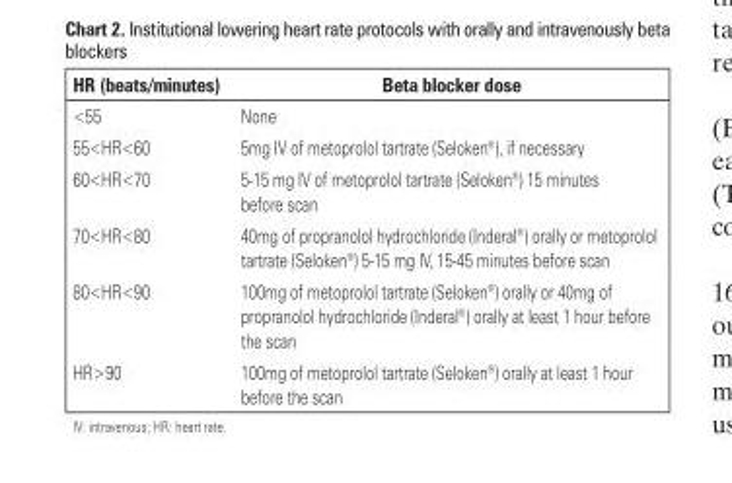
<table><thead><tr><td>HR (beats/minutes)</td><td>Beta blocker dose</td></tr></thead><tbody><tr><td>&lt;55</td><td>None</td></tr><tr><td>55&lt;HR&lt;60</td><td>5mg IV of metoprolol tartrate (Seloken<sup>®</sup>), if necessary</td></tr><tr><td>60&lt;HR&lt;70</td><td>5-15 mg IV of metoprolol tartrate (Seloken<sup>®</sup>) 15 minutes before scan</td></tr><tr><td>70&lt;HR&lt;80</td><td>40mg of propranolol hydrochloride (Inderal<sup>®</sup>) orally or metoprolol tartrate (Seloken<sup>®</sup>) 5-15 mg IV, 15-45 minutes before scan</td></tr><tr><td>80&lt;HR&lt;90</td><td>100mg of metoprolol tartrate (Seloken<sup>®</sup>) orally or 40mg of propranolol hydrochloride (Inderal<sup>®</sup>) orally at least 1 hour before the scan</td></tr><tr><td>HR&gt;90</td><td>100mg of metoprolol tartrate (Seloken<sup>®</sup>) orally at least 1 hour before the scan</td></tr></tbody></table>